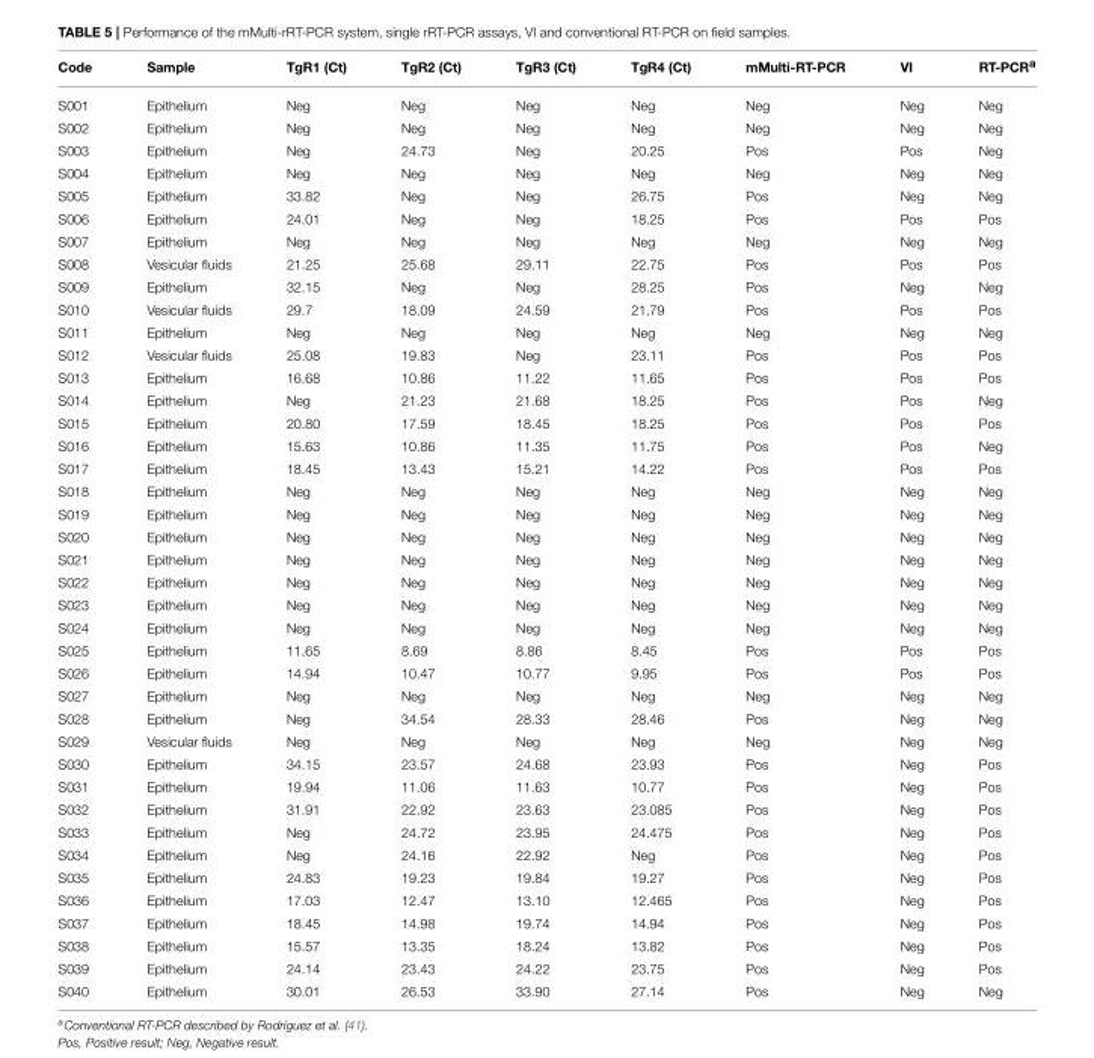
<table><thead><tr><td>Code</td><td>Sample</td><td>TgR1 (Ct)</td><td>TgR2 (Ct)</td><td>TgR3 (Ct)</td><td>TgR4 (Ct)</td><td>mMulti-RT-PCR</td><td>VI</td><td>RT-PCR<sup>a</sup></td></tr></thead><tbody><tr><td>S001</td><td>Epithelium</td><td>Neg</td><td>Neg</td><td>Neg</td><td>Neg</td><td>Neg</td><td>Neg</td><td>Neg</td></tr><tr><td>S002</td><td>Epithelium</td><td>Neg</td><td>Neg</td><td>Neg</td><td>Neg</td><td>Neg</td><td>Neg</td><td>Neg</td></tr><tr><td>S003</td><td>Epithelium</td><td>Neg</td><td>24.73</td><td>Neg</td><td>20.25</td><td>Pos</td><td>Pos</td><td>Neg</td></tr><tr><td>S004</td><td>Epithelium</td><td>Neg</td><td>Neg</td><td>Neg</td><td>Neg</td><td>Neg</td><td>Neg</td><td>Neg</td></tr><tr><td>S005</td><td>Epithelium</td><td>33.82</td><td>Neg</td><td>Neg</td><td>26.75</td><td>Pos</td><td>Neg</td><td>Neg</td></tr><tr><td>S006</td><td>Epithelium</td><td>24.01</td><td>Neg</td><td>Neg</td><td>18.25</td><td>Pos</td><td>Pos</td><td>Pos</td></tr><tr><td>S007</td><td>Epithelium</td><td>Neg</td><td>Neg</td><td>Neg</td><td>Neg</td><td>Neg</td><td>Neg</td><td>Neg</td></tr><tr><td>S008</td><td>Vesicular fluids</td><td>21.25</td><td>25.68</td><td>29.11</td><td>22.75</td><td>Pos</td><td>Pos</td><td>Pos</td></tr><tr><td>S009</td><td>Epithelium</td><td>32.15</td><td>Neg</td><td>Neg</td><td>28.25</td><td>Pos</td><td>Neg</td><td>Neg</td></tr><tr><td>S010</td><td>Vesicular fluids</td><td>29.7</td><td>18.09</td><td>24.59</td><td>21.79</td><td>Pos</td><td>Pos</td><td>Pos</td></tr><tr><td>S011</td><td>Epithelium</td><td>Neg</td><td>Neg</td><td>Neg</td><td>Neg</td><td>Neg</td><td>Neg</td><td>Neg</td></tr><tr><td>S012</td><td>Vesicular fluids</td><td>25.08</td><td>19.83</td><td>Neg</td><td>23.11</td><td>Pos</td><td>Pos</td><td>Pos</td></tr><tr><td>S013</td><td>Epithelium</td><td>16.68</td><td>10.86</td><td>11.22</td><td>11.65</td><td>Pos</td><td>Pos</td><td>Pos</td></tr><tr><td>S014</td><td>Epithelium</td><td>Neg</td><td>21.23</td><td>21.68</td><td>18.25</td><td>Pos</td><td>Pos</td><td>Neg</td></tr><tr><td>S015</td><td>Epithelium</td><td>20.80</td><td>17.59</td><td>18.45</td><td>18.25</td><td>Pos</td><td>Pos</td><td>Pos</td></tr><tr><td>S016</td><td>Epithelium</td><td>15.63</td><td>10.86</td><td>11.35</td><td>11.75</td><td>Pos</td><td>Pos</td><td>Neg</td></tr><tr><td>S017</td><td>Epithelium</td><td>18.45</td><td>13.43</td><td>15.21</td><td>14.22</td><td>Pos</td><td>Pos</td><td>Pos</td></tr><tr><td>S018</td><td>Epithelium</td><td>Neg</td><td>Neg</td><td>Neg</td><td>Neg</td><td>Neg</td><td>Neg</td><td>Neg</td></tr><tr><td>S019</td><td>Epithelium</td><td>Neg</td><td>Neg</td><td>Neg</td><td>Neg</td><td>Neg</td><td>Neg</td><td>Neg</td></tr><tr><td>S020</td><td>Epithelium</td><td>Neg</td><td>Neg</td><td>Neg</td><td>Neg</td><td>Neg</td><td>Neg</td><td>Neg</td></tr><tr><td>S021</td><td>Epithelium</td><td>Neg</td><td>Neg</td><td>Neg</td><td>Neg</td><td>Neg</td><td>Neg</td><td>Neg</td></tr><tr><td>S022</td><td>Epithelium</td><td>Neg</td><td>Neg</td><td>Neg</td><td>Neg</td><td>Neg</td><td>Neg</td><td>Neg</td></tr><tr><td>S023</td><td>Epithelium</td><td>Neg</td><td>Neg</td><td>Neg</td><td>Neg</td><td>Neg</td><td>Neg</td><td>Neg</td></tr><tr><td>S024</td><td>Epithelium</td><td>Neg</td><td>Neg</td><td>Neg</td><td>Neg</td><td>Neg</td><td>Neg</td><td>Neg</td></tr><tr><td>S025</td><td>Epithelium</td><td>11.65</td><td>8.69</td><td>8.86</td><td>8.45</td><td>Pos</td><td>Pos</td><td>Pos</td></tr><tr><td>S026</td><td>Epithelium</td><td>14.94</td><td>10.47</td><td>10.77</td><td>9.95</td><td>Pos</td><td>Pos</td><td>Pos</td></tr><tr><td>S027</td><td>Epithelium</td><td>Neg</td><td>Neg</td><td>Neg</td><td>Neg</td><td>Neg</td><td>Neg</td><td>Neg</td></tr><tr><td>S028</td><td>Epithelium</td><td>Neg</td><td>34.54</td><td>28.33</td><td>28.46</td><td>Pos</td><td>Neg</td><td>Neg</td></tr><tr><td>S029</td><td>Vesicular fluids</td><td>Neg</td><td>Neg</td><td>Neg</td><td>Neg</td><td>Neg</td><td>Neg</td><td>Neg</td></tr><tr><td>S030</td><td>Epithelium</td><td>34.15</td><td>23.57</td><td>24.68</td><td>23.93</td><td>Pos</td><td>Neg</td><td>Pos</td></tr><tr><td>S031</td><td>Epithelium</td><td>19.94</td><td>11.06</td><td>11.63</td><td>10.77</td><td>Pos</td><td>Neg</td><td>Pos</td></tr><tr><td>S032</td><td>Epithelium</td><td>31.91</td><td>22.92</td><td>23.63</td><td>23.085</td><td>Pos</td><td>Neg</td><td>Pos</td></tr><tr><td>S033</td><td>Epithelium</td><td>Neg</td><td>24.72</td><td>23.95</td><td>24.475</td><td>Pos</td><td>Neg</td><td>Pos</td></tr><tr><td>S034</td><td>Epithelium</td><td>Neg</td><td>24.16</td><td>22.92</td><td>Neg</td><td>Pos</td><td>Neg</td><td>Pos</td></tr><tr><td>S035</td><td>Epithelium</td><td>24.83</td><td>19.23</td><td>19.84</td><td>19.27</td><td>Pos</td><td>Neg</td><td>Pos</td></tr><tr><td>S036</td><td>Epithelium</td><td>17.03</td><td>12.47</td><td>13.10</td><td>12.465</td><td>Pos</td><td>Neg</td><td>Pos</td></tr><tr><td>S037</td><td>Epithelium</td><td>18.45</td><td>14.98</td><td>19.74</td><td>14.94</td><td>Pos</td><td>Neg</td><td>Pos</td></tr><tr><td>S038</td><td>Epithelium</td><td>15.57</td><td>13.35</td><td>18.24</td><td>13.82</td><td>Pos</td><td>Neg</td><td>Pos</td></tr><tr><td>S039</td><td>Epithelium</td><td>24.14</td><td>23.43</td><td>24.22</td><td>23.75</td><td>Pos</td><td>Neg</td><td>Pos</td></tr><tr><td>S040</td><td>Epithelium</td><td>30.01</td><td>26.53</td><td>33.90</td><td>27.14</td><td>Pos</td><td>Neg</td><td>Neg</td></tr></tbody></table>